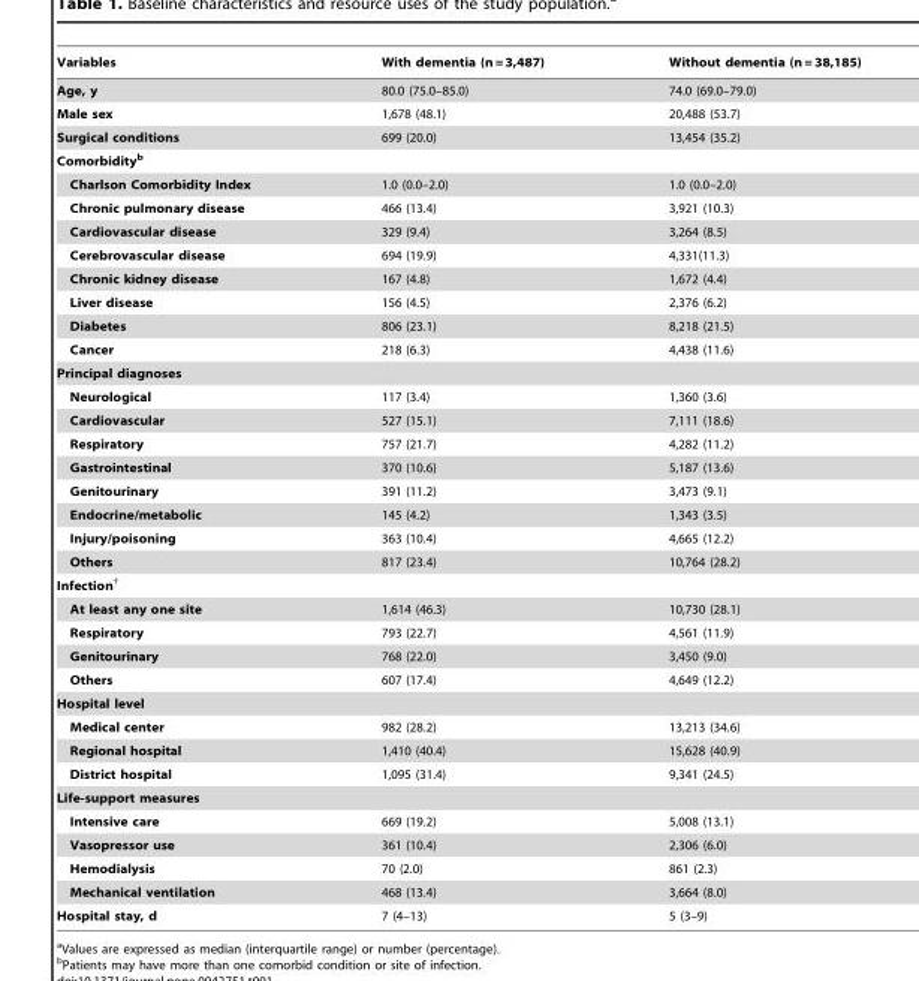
<table><thead><tr><td>Variables</td><td>With dementia (n = 3,487)</td><td>Without dementia (n = 38,185)</td></tr></thead><tbody><tr><td>Age, y</td><td>80.0 (75.0–85.0)</td><td>74.0 (69.0–79.0)</td></tr><tr><td>Male sex</td><td>1,678 (48.1)</td><td>20,488 (53.7)</td></tr><tr><td>Surgical conditions</td><td>699 (20.0)</td><td>13,454 (35.2)</td></tr><tr><td colspan="3">Comorbidityb</td></tr><tr><td>Charlson Comorbidity Index</td><td>1.0 (0.0–2.0)</td><td>1.0 (0.0–2.0)</td></tr><tr><td>Chronic pulmonary disease</td><td>466 (13.4)</td><td>3,921 (10.3)</td></tr><tr><td>Cardiovascular disease</td><td>329 (9.4)</td><td>3,264 (8.5)</td></tr><tr><td>Cerebrovascular disease</td><td>694 (19.9)</td><td>4,331(11.3)</td></tr><tr><td>Chronic kidney disease</td><td>167 (4.8)</td><td>1,672 (4.4)</td></tr><tr><td>Liver disease</td><td>156 (4.5)</td><td>2,376 (6.2)</td></tr><tr><td>Diabetes</td><td>806 (23.1)</td><td>8,218 (21.5)</td></tr><tr><td>Cancer</td><td>218 (6.3)</td><td>4,438 (11.6)</td></tr><tr><td colspan="3">Principal diagnoses</td></tr><tr><td>Neurological</td><td>117 (3.4)</td><td>1,360 (3.6)</td></tr><tr><td>Cardiovascular</td><td>527 (15.1)</td><td>7,111 (18.6)</td></tr><tr><td>Respiratory</td><td>757 (21.7)</td><td>4,282 (11.2)</td></tr><tr><td>Gastrointestinal</td><td>370 (10.6)</td><td>5,187 (13.6)</td></tr><tr><td>Genitourinary</td><td>391 (11.2)</td><td>3,473 (9.1)</td></tr><tr><td>Endocrine/metabolic</td><td>145 (4.2)</td><td>1,343 (3.5)</td></tr><tr><td>Injury/poisoning</td><td>363 (10.4)</td><td>4,665 (12.2)</td></tr><tr><td>Others</td><td>817 (23.4)</td><td>10,764 (28.2)</td></tr><tr><td colspan="3">Infection<sup>†</sup></td></tr><tr><td>At least any one site</td><td>1,614 (46.3)</td><td>10,730 (28.1)</td></tr><tr><td>Respiratory</td><td>793 (22.7)</td><td>4,561 (11.9)</td></tr><tr><td>Genitourinary</td><td>768 (22.0)</td><td>3,450 (9.0)</td></tr><tr><td>Others</td><td>607 (17.4)</td><td>4,649 (12.2)</td></tr><tr><td colspan="3">Hospital level</td></tr><tr><td>Medical center</td><td>982 (28.2)</td><td>13,213 (34.6)</td></tr><tr><td>Regional hospital</td><td>1,410 (40.4)</td><td>15,628 (40.9)</td></tr><tr><td>District hospital</td><td>1,095 (31.4)</td><td>9,341 (24.5)</td></tr><tr><td colspan="3">Life-support measures</td></tr><tr><td>Intensive care</td><td>669 (19.2)</td><td>5,008 (13.1)</td></tr><tr><td>Vasopressor use</td><td>361 (10.4)</td><td>2,306 (6.0)</td></tr><tr><td>Hemodialysis</td><td>70 (2.0)</td><td>861 (2.3)</td></tr><tr><td>Mechanical ventilation</td><td>468 (13.4)</td><td>3,664 (8.0)</td></tr><tr><td>Hospital stay, d</td><td>7 (4–13)</td><td>5 (3–9)</td></tr></tbody></table>